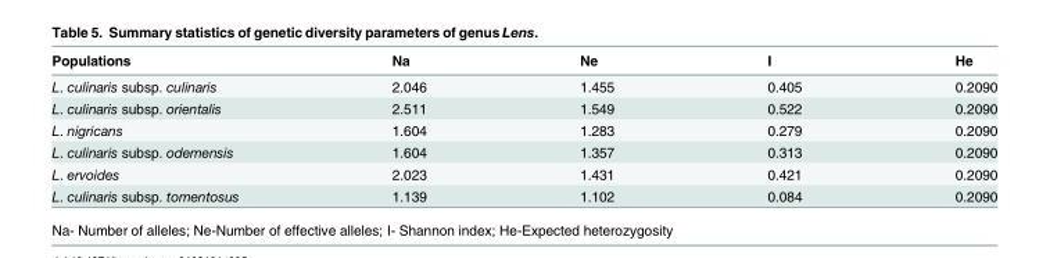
<table><thead><tr><td>Populations</td><td>Na</td><td>Ne</td><td>I</td><td>He</td></tr></thead><tbody><tr><td>L. culinaris subsp. culinaris</td><td>2.046</td><td>1.455</td><td>0.405</td><td>0.2090</td></tr><tr><td>L. culinaris subsp. orientalis</td><td>2.511</td><td>1.549</td><td>0.522</td><td>0.2090</td></tr><tr><td>L. nigricans</td><td>1.604</td><td>1.283</td><td>0.279</td><td>0.2090</td></tr><tr><td>L. culinaris subsp. odemensis</td><td>1.604</td><td>1.357</td><td>0.313</td><td>0.2090</td></tr><tr><td>L. ervoides</td><td>2.023</td><td>1.431</td><td>0.421</td><td>0.2090</td></tr><tr><td>L. culinaris subsp. tomentosus</td><td>1.139</td><td>1.102</td><td>0.084</td><td>0.2090</td></tr></tbody></table>